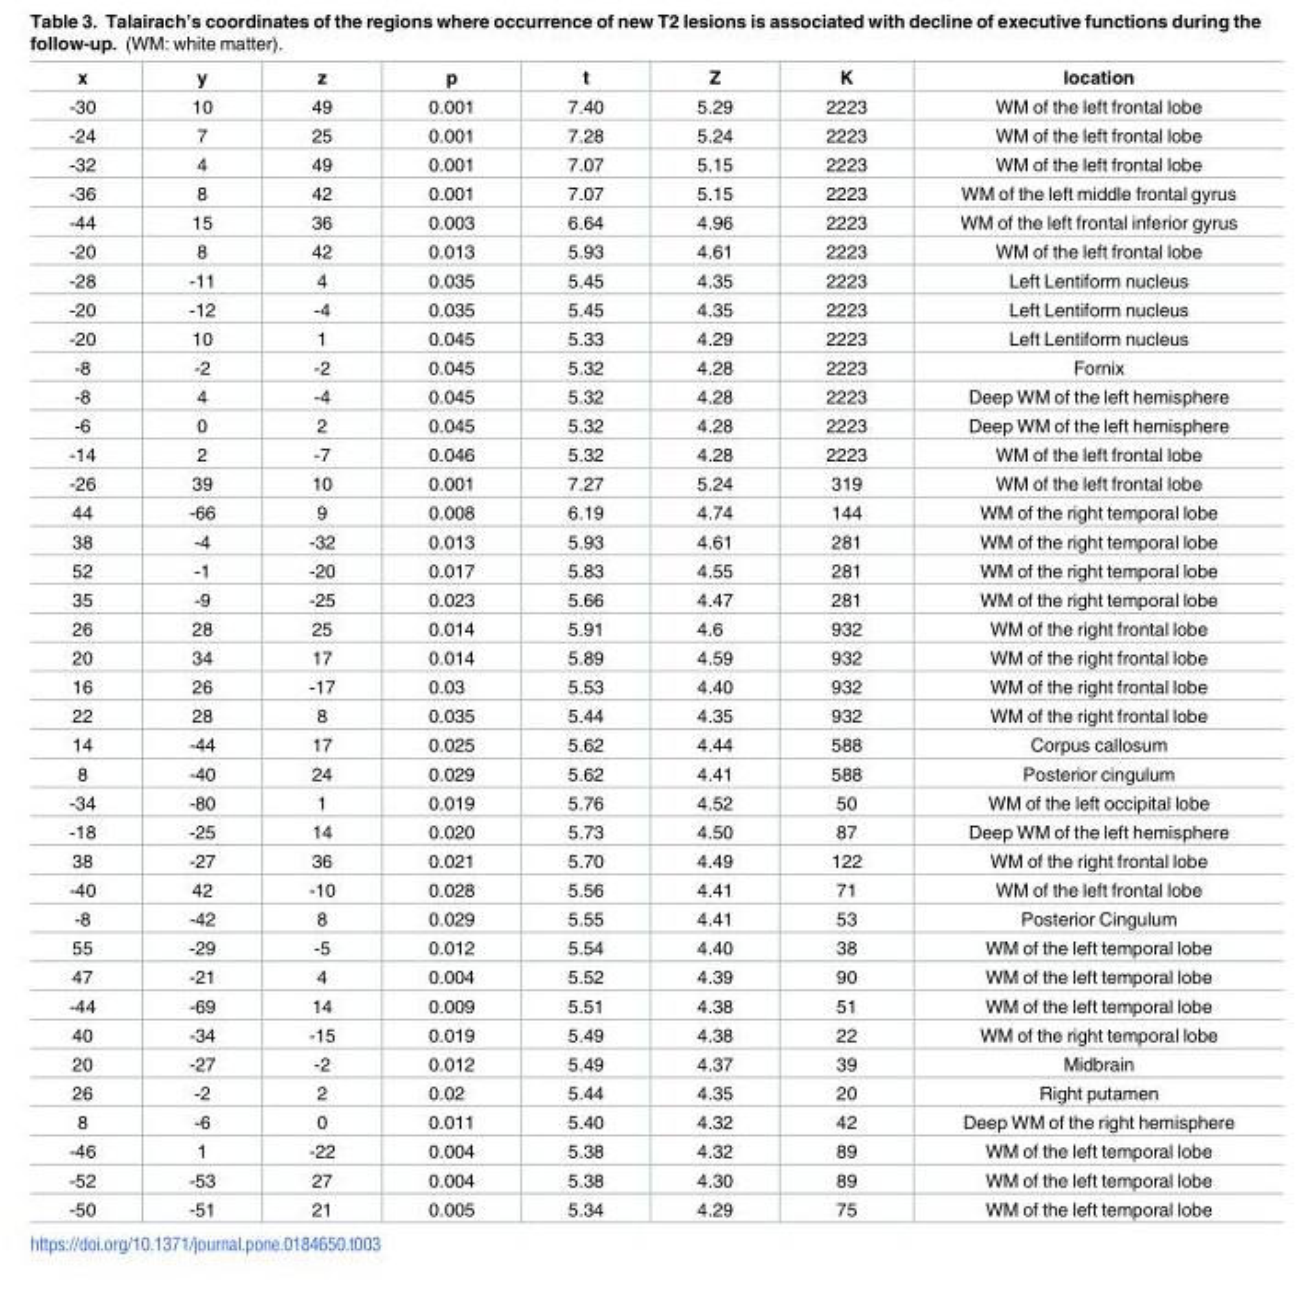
<table><thead><tr><td>x</td><td>y</td><td>z</td><td>p</td><td>t</td><td>Z</td><td>K</td><td>location</td></tr></thead><tbody><tr><td>-30</td><td>10</td><td>49</td><td>0.001</td><td>7.40</td><td>5.29</td><td>2223</td><td>WM of the left frontal lobe</td></tr><tr><td>-24</td><td>7</td><td>25</td><td>0.001</td><td>7.28</td><td>5.24</td><td>2223</td><td>WM of the left frontal lobe</td></tr><tr><td>-32</td><td>4</td><td>49</td><td>0.001</td><td>7.07</td><td>5.15</td><td>2223</td><td>WM of the left frontal lobe</td></tr><tr><td>-36</td><td>8</td><td>42</td><td>0.001</td><td>7.07</td><td>5.15</td><td>2223</td><td>WM of the left middle frontal gyrus</td></tr><tr><td>-44</td><td>15</td><td>36</td><td>0.003</td><td>6.64</td><td>4.96</td><td>2223</td><td>WM of the left frontal inferior gyrus</td></tr><tr><td>-20</td><td>8</td><td>42</td><td>0.013</td><td>5.93</td><td>4.61</td><td>2223</td><td>WM of the left frontal lobe</td></tr><tr><td>-28</td><td>-11</td><td>4</td><td>0.035</td><td>5.45</td><td>4.35</td><td>2223</td><td>Left Lentiform nucleus</td></tr><tr><td>-20</td><td>-12</td><td>-4</td><td>0.035</td><td>5.45</td><td>4.35</td><td>2223</td><td>Left Lentiform nucleus</td></tr><tr><td>-20</td><td>10</td><td>1</td><td>0.045</td><td>5.33</td><td>4.29</td><td>2223</td><td>Left Lentiform nucleus</td></tr><tr><td>-8</td><td>-2</td><td>-2</td><td>0.045</td><td>5.32</td><td>4.28</td><td>2223</td><td>Fornix</td></tr><tr><td>-8</td><td>4</td><td>-4</td><td>0.045</td><td>5.32</td><td>4.28</td><td>2223</td><td>Deep WM of the left hemisphere</td></tr><tr><td>-6</td><td>0</td><td>2</td><td>0.045</td><td>5.32</td><td>4.28</td><td>2223</td><td>Deep WM of the left hemisphere</td></tr><tr><td>-14</td><td>2</td><td>-7</td><td>0.046</td><td>5.32</td><td>4.28</td><td>2223</td><td>WM of the left frontal lobe</td></tr><tr><td>-26</td><td>39</td><td>10</td><td>0.001</td><td>7.27</td><td>5.24</td><td>319</td><td>WM of the left frontal lobe</td></tr><tr><td>44</td><td>-66</td><td>9</td><td>0.008</td><td>6.19</td><td>4.74</td><td>144</td><td>WM of the right temporal lobe</td></tr><tr><td>38</td><td>-4</td><td>-32</td><td>0.013</td><td>5.93</td><td>4.61</td><td>281</td><td>WM of the right temporal lobe</td></tr><tr><td>52</td><td>-1</td><td>-20</td><td>0.017</td><td>5.83</td><td>4.55</td><td>281</td><td>WM of the right temporal lobe</td></tr><tr><td>35</td><td>-9</td><td>-25</td><td>0.023</td><td>5.66</td><td>4.47</td><td>281</td><td>WM of the right temporal lobe</td></tr><tr><td>26</td><td>28</td><td>25</td><td>0.014</td><td>5.91</td><td>4.6</td><td>932</td><td>WM of the right frontal lobe</td></tr><tr><td>20</td><td>34</td><td>17</td><td>0.014</td><td>5.89</td><td>4.59</td><td>932</td><td>WM of the right frontal lobe</td></tr><tr><td>16</td><td>26</td><td>-17</td><td>0.03</td><td>5.53</td><td>4.40</td><td>932</td><td>WM of the right frontal lobe</td></tr><tr><td>22</td><td>28</td><td>8</td><td>0.035</td><td>5.44</td><td>4.35</td><td>932</td><td>WM of the right frontal lobe</td></tr><tr><td>14</td><td>-44</td><td>17</td><td>0.025</td><td>5.62</td><td>4.44</td><td>588</td><td>Corpus callosum</td></tr><tr><td>8</td><td>-40</td><td>24</td><td>0.029</td><td>5.62</td><td>4.41</td><td>588</td><td>Posterior cingulum</td></tr><tr><td>-34</td><td>-80</td><td>1</td><td>0.019</td><td>5.76</td><td>4.52</td><td>50</td><td>WM of the left occipital lobe</td></tr><tr><td>-18</td><td>-25</td><td>14</td><td>0.020</td><td>5.73</td><td>4.50</td><td>87</td><td>Deep WM of the left hemisphere</td></tr><tr><td>38</td><td>-27</td><td>36</td><td>0.021</td><td>5.70</td><td>4.49</td><td>122</td><td>WM of the right frontal lobe</td></tr><tr><td>-40</td><td>42</td><td>-10</td><td>0.028</td><td>5.56</td><td>4.41</td><td>71</td><td>WM of the left frontal lobe</td></tr><tr><td>-8</td><td>-42</td><td>8</td><td>0.029</td><td>5.55</td><td>4.41</td><td>53</td><td>Posterior Cingulum</td></tr><tr><td>55</td><td>-29</td><td>-5</td><td>0.012</td><td>5.54</td><td>4.40</td><td>38</td><td>WM of the left temporal lobe</td></tr><tr><td>47</td><td>-21</td><td>4</td><td>0.004</td><td>5.52</td><td>4.39</td><td>90</td><td>WM of the left temporal lobe</td></tr><tr><td>-44</td><td>-69</td><td>14</td><td>0.009</td><td>5.51</td><td>4.38</td><td>51</td><td>WM of the left temporal lobe</td></tr><tr><td>40</td><td>-34</td><td>-15</td><td>0.019</td><td>5.49</td><td>4.38</td><td>22</td><td>WM of the right temporal lobe</td></tr><tr><td>20</td><td>-27</td><td>-2</td><td>0.012</td><td>5.49</td><td>4.37</td><td>39</td><td>Midbrain</td></tr><tr><td>26</td><td>-2</td><td>2</td><td>0.02</td><td>5.44</td><td>4.35</td><td>20</td><td>Right putamen</td></tr><tr><td>8</td><td>-6</td><td>0</td><td>0.011</td><td>5.40</td><td>4.32</td><td>42</td><td>Deep WM of the right hemisphere</td></tr><tr><td>-46</td><td>1</td><td>-22</td><td>0.004</td><td>5.38</td><td>4.32</td><td>89</td><td>WM of the left temporal lobe</td></tr><tr><td>-52</td><td>-53</td><td>27</td><td>0.004</td><td>5.38</td><td>4.30</td><td>89</td><td>WM of the left temporal lobe</td></tr><tr><td>-50</td><td>-51</td><td>21</td><td>0.005</td><td>5.34</td><td>4.29</td><td>75</td><td>WM of the left temporal lobe</td></tr></tbody></table>